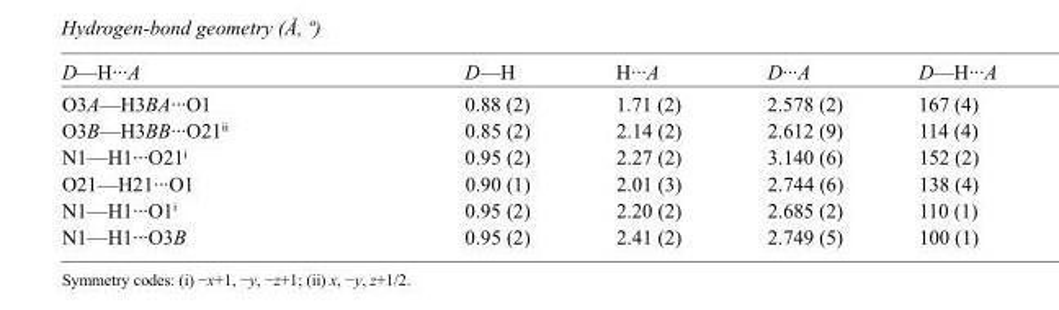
<table><tbody><tr><td>D—H···A</td><td>D—H</td><td>H···A</td><td>D···A</td><td>D—H···A</td></tr><tr><td>O3A—H3BA···O1</td><td>0.88 (2)</td><td>1.71 (2)</td><td>2.578 (2)</td><td>167 (4)</td></tr><tr><td>O3B—H3BB···O21<sup>ii</sup></td><td>0.85 (2)</td><td>2.14 (2)</td><td>2.612 (9)</td><td>114 (4)</td></tr><tr><td>N1—H1···O21<sup>i</sup></td><td>0.95 (2)</td><td>2.27 (2)</td><td>3.140 (6)</td><td>152 (2)</td></tr><tr><td>O21—H21···O1</td><td>0.90 (1)</td><td>2.01 (3)</td><td>2.744 (6)</td><td>138 (4)</td></tr><tr><td>N1—H1···O1<sup>i</sup></td><td>0.95 (2)</td><td>2.20 (2)</td><td>2.685 (2)</td><td>110 (1)</td></tr><tr><td>N1—H1···O3B</td><td>0.95 (2)</td><td>2.41 (2)</td><td>2.749 (5)</td><td>100 (1)</td></tr></tbody></table>